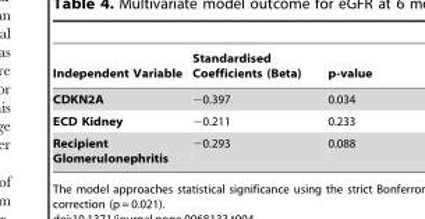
<table><thead><tr><td>Independent Variable</td><td>Standardised Coefficients (Beta)</td><td>p-value</td></tr></thead><tbody><tr><td>CDKN2A</td><td>−0.397</td><td>0.034</td></tr><tr><td>ECD Kidney</td><td>−0.211</td><td>0.233</td></tr><tr><td>Recipient Glomerulonephritis</td><td>−0.293</td><td>0.088</td></tr></tbody></table>